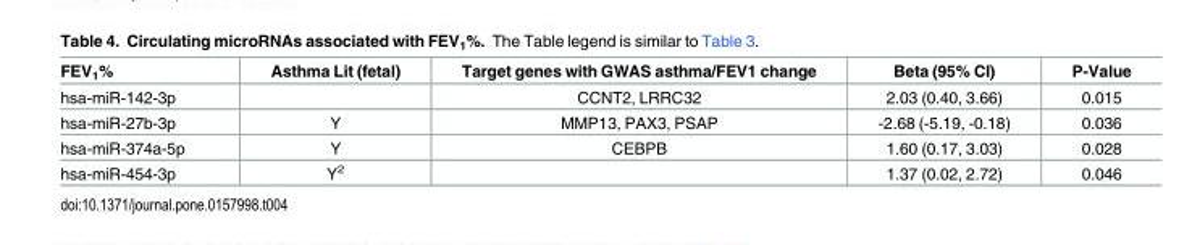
<table><thead><tr><td>FEV<sub>1</sub>%</td><td>Asthma Lit (fetal)</td><td>Target genes with GWAS asthma/FEV1 change</td><td>Beta (95% CI)</td><td>P-Value</td></tr></thead><tbody><tr><td>hsa-miR-142-3p</td><td></td><td>CCNT2, LRRC32</td><td>2.03 (0.40, 3.66)</td><td>0.015</td></tr><tr><td>hsa-miR-27b-3p</td><td>Y</td><td>MMP13, PAX3, PSAP</td><td>-2.68 (-5.19, -0.18)</td><td>0.036</td></tr><tr><td>hsa-miR-374a-5p</td><td>Y</td><td>CEBPB</td><td>1.60 (0.17, 3.03)</td><td>0.028</td></tr><tr><td>hsa-miR-454-3p</td><td>Y<sup>2</sup></td><td></td><td>1.37 (0.02, 2.72)</td><td>0.046</td></tr></tbody></table>